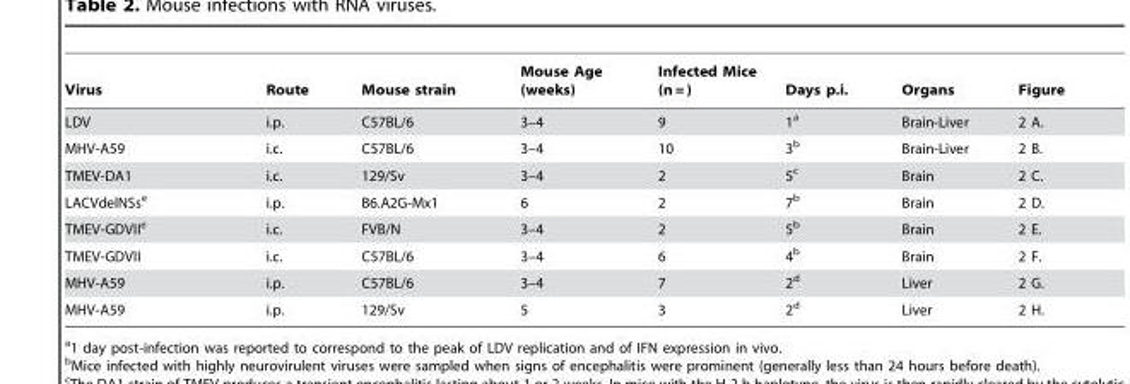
<table><thead><tr><td>Virus</td><td>Route</td><td>Mouse strain</td><td>Mouse Age (weeks)</td><td>Infected Mice (n = )</td><td>Days p.i.</td><td>Organs</td><td>Figure</td></tr></thead><tbody><tr><td>LDV</td><td>i.p.</td><td>C57BL/6</td><td>3–4</td><td>9</td><td>1<sup>a</sup></td><td>Brain-Liver</td><td>2 A.</td></tr><tr><td>MHV-A59</td><td>i.c.</td><td>C57BL/6</td><td>3–4</td><td>10</td><td>3<sup>b</sup></td><td>Brain-Liver</td><td>2 B.</td></tr><tr><td>TMEV-DA1</td><td>i.c.</td><td>129/Sv</td><td>3–4</td><td>2</td><td>5<sup>c</sup></td><td>Brain</td><td>2 C.</td></tr><tr><td>LACVdelNSs<sup>e</sup></td><td>i.p.</td><td>B6.A2G-Mx1</td><td>6</td><td>2</td><td>7<sup>b</sup></td><td>Brain</td><td>2 D.</td></tr><tr><td>TMEV-GDVII<sup>e</sup></td><td>i.c.</td><td>FVB/N</td><td>3–4</td><td>2</td><td>5<sup>b</sup></td><td>Brain</td><td>2 E.</td></tr><tr><td>TMEV-GDVII</td><td>i.c.</td><td>C57BL/6</td><td>3–4</td><td>6</td><td>4<sup>b</sup></td><td>Brain</td><td>2 F.</td></tr><tr><td>MHV-A59</td><td>i.p.</td><td>C57BL/6</td><td>3–4</td><td>7</td><td>2<sup>d</sup></td><td>Liver</td><td>2 G.</td></tr><tr><td>MHV-A59</td><td>i.p.</td><td>129/Sv</td><td>5</td><td>3</td><td>2<sup>d</sup></td><td>Liver</td><td>2 H.</td></tr></tbody></table>